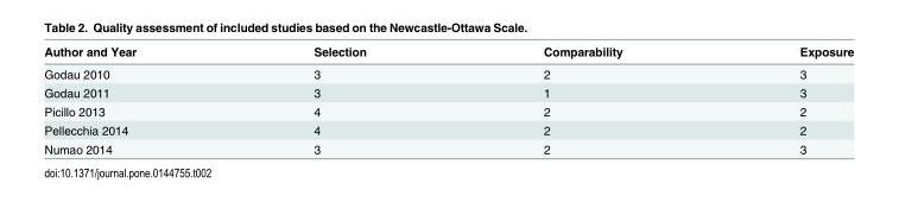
<table><thead><tr><td>Author and Year</td><td>Selection</td><td>Comparability</td><td>Exposure</td></tr></thead><tbody><tr><td>Godau 2010</td><td>3</td><td>2</td><td>3</td></tr><tr><td>Godau 2011</td><td>3</td><td>1</td><td>3</td></tr><tr><td>Picillo 2013</td><td>4</td><td>2</td><td>2</td></tr><tr><td>Pellecchia 2014</td><td>4</td><td>2</td><td>2</td></tr><tr><td>Numao 2014</td><td>3</td><td>2</td><td>3</td></tr></tbody></table>